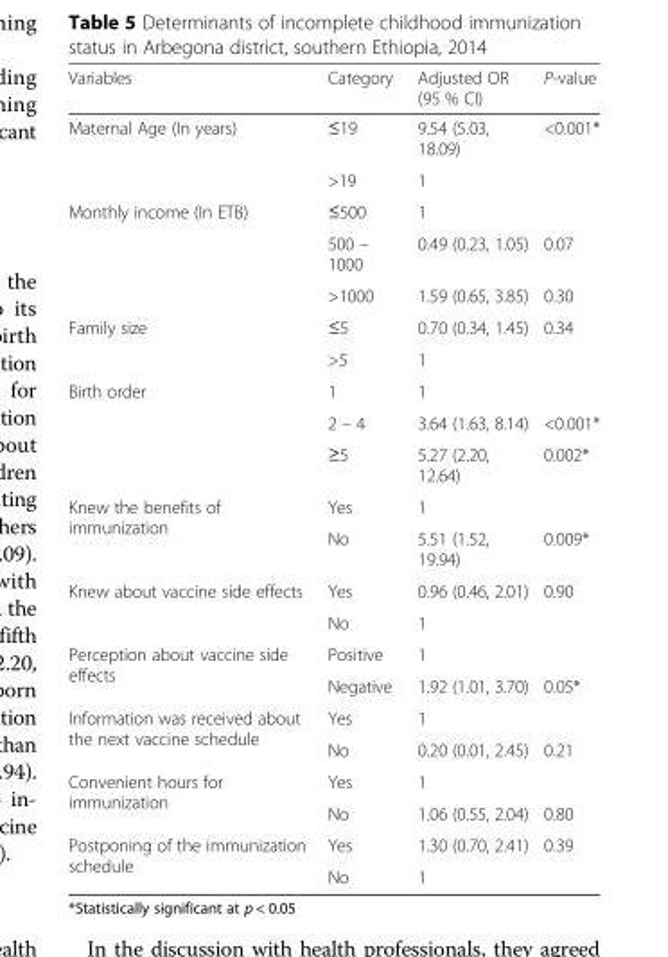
<table><thead><tr><td>Variables</td><td>Category</td><td>Adjusted OR (95 % CI)</td><td>P-value</td></tr></thead><tbody><tr><td rowspan="2">Maternal Age (In years)</td><td>≤19</td><td>9.54 (5.03, 18.09)</td><td>&lt;0.001*</td></tr><tr><td>&gt;19</td><td>1</td><td></td></tr><tr><td rowspan="3">Monthly income (In ETB)</td><td>≤500</td><td>1</td><td></td></tr><tr><td>500 – 1000</td><td>0.49 (0.23, 1.05)</td><td>0.07</td></tr><tr><td>&gt;1000</td><td>1.59 (0.65, 3.85)</td><td>0.30</td></tr><tr><td rowspan="2">Family size</td><td>≤5</td><td>0.70 (0.34, 1.45)</td><td>0.34</td></tr><tr><td>&gt;5</td><td>1</td><td></td></tr><tr><td rowspan="3">Birth order</td><td>1</td><td>1</td><td></td></tr><tr><td>2 – 4</td><td>3.64 (1.63, 8.14)</td><td>&lt;0.001*</td></tr><tr><td>≥5</td><td>5.27 (2.20, 12.64)</td><td>0.002*</td></tr><tr><td rowspan="2">Knew the benefits of immunization</td><td>Yes</td><td>1</td><td></td></tr><tr><td>No</td><td>5.51 (1.52, 19.94)</td><td>0.009*</td></tr><tr><td rowspan="2">Knew about vaccine side effects</td><td>Yes</td><td>0.96 (0.46, 2.01)</td><td>0.90</td></tr><tr><td>No</td><td>1</td><td></td></tr><tr><td rowspan="2">Perception about vaccine side effects</td><td>Positive</td><td>1</td><td></td></tr><tr><td>Negative</td><td>1.92 (1.01, 3.70)</td><td>0.05*</td></tr><tr><td rowspan="2">Information was received about the next vaccine schedule</td><td>Yes</td><td>1</td><td></td></tr><tr><td>No</td><td>0.20 (0.01, 2.45)</td><td>0.21</td></tr><tr><td rowspan="2">Convenient hours for immunization</td><td>Yes</td><td>1</td><td></td></tr><tr><td>No</td><td>1.06 (0.55, 2.04)</td><td>0.80</td></tr><tr><td rowspan="2">Postponing of the immunization schedule</td><td>Yes</td><td>1.30 (0.70, 2.41)</td><td>0.39</td></tr><tr><td>No</td><td>1</td><td></td></tr></tbody></table>